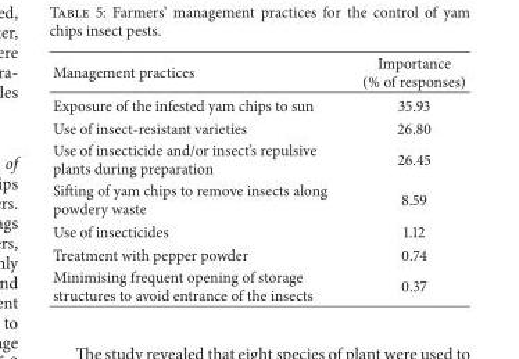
<table><thead><tr><td>Management practices</td><td>Importance (% of responses)</td></tr></thead><tbody><tr><td>Exposure of the infested yam chips to sun</td><td>35.93</td></tr><tr><td>Use of insect-resistant varieties</td><td>26.80</td></tr><tr><td>Use of insecticide and/or insect’s repulsive plants during preparation</td><td>26.45</td></tr><tr><td>Sifting of yam chips to remove insects along powdery waste</td><td>8.59</td></tr><tr><td>Use of insecticides</td><td>1.12</td></tr><tr><td>Treatment with pepper powder</td><td>0.74</td></tr><tr><td>Minimising frequent opening of storage structures to avoid entrance of the insects</td><td>0.37</td></tr></tbody></table>